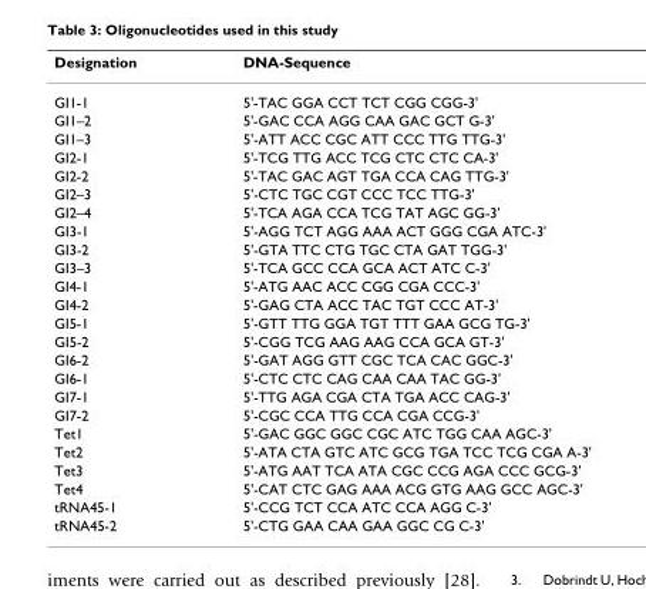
<table><thead><tr><td>Designation</td><td>DNA-Sequence</td></tr></thead><tbody><tr><td>GI1-1</td><td>5&#x27;-TAC GGA CCT TCT CGG CGG-3&#x27;</td></tr><tr><td>GI1–2</td><td>5&#x27;-GAC CCA AGG CAA GAC GCT G-3&#x27;</td></tr><tr><td>GI1–3</td><td>5&#x27;-ATT ACC CGC ATT CCC TTG TTG-3&#x27;</td></tr><tr><td>GI2-1</td><td>5&#x27;-TCG TTG ACC TCG CTC CTC CA-3&#x27;</td></tr><tr><td>GI2-2</td><td>5&#x27;-TAC GAC AGT TGA CCA CAG TTG-3&#x27;</td></tr><tr><td>GI2–3</td><td>5&#x27;-CTC TGC CGT CCC TCC TTG-3&#x27;</td></tr><tr><td>GI2–4</td><td>5&#x27;-TCA AGA CCA TCG TAT AGC GG-3&#x27;</td></tr><tr><td>GI3-1</td><td>5&#x27;-AGG TCT AGG AAA ACT GGG CGA ATC-3&#x27;</td></tr><tr><td>GI3-2</td><td>5&#x27;-GTA TTC CTG TGC CTA GAT TGG-3&#x27;</td></tr><tr><td>GI3–3</td><td>5&#x27;-TCA GCC CCA GCA ACT ATC C-3&#x27;</td></tr><tr><td>GI4-1</td><td>5&#x27;-ATG AAC ACC CGG CGA CCC-3&#x27;</td></tr><tr><td>GI4-2</td><td>5&#x27;-GAG CTA ACC TAC TGT CCC AT-3&#x27;</td></tr><tr><td>GI5-1</td><td>5&#x27;-GTT TTG GGA TGT TTT GAA GCG TG-3&#x27;</td></tr><tr><td>GI5-2</td><td>5&#x27;-CGG TCG AAG AAG CCA GCA GT-3&#x27;</td></tr><tr><td>GI6-2</td><td>5&#x27;-GAT AGG GTT CGC TCA CAC GGC-3&#x27;</td></tr><tr><td>GI6-1</td><td>5&#x27;-CTC CTC CAG CAA CAA TAC GG-3&#x27;</td></tr><tr><td>GI7-1</td><td>5&#x27;-TTG AGA CGA CTA TGA ACC CAG-3&#x27;</td></tr><tr><td>GI7-2</td><td>5&#x27;-CGC CCA TTG CCA CGA CCG-3&#x27;</td></tr><tr><td>Tet1</td><td>5&#x27;-GAC GGC GGC CGC ATC TGG CAA AGC-3&#x27;</td></tr><tr><td>Tet2</td><td>5&#x27;-ATA CTA GTC ATC GCG TGA TCC TCG CGA A-3&#x27;</td></tr><tr><td>Tet3</td><td>5&#x27;-ATG AAT TCA ATA CGC CCG AGA CCC GCG-3&#x27;</td></tr><tr><td>Tet4</td><td>5&#x27;-CAT CTC GAG AAA ACG GTG AAG GCC AGC-3&#x27;</td></tr><tr><td>tRNA45-1</td><td>5&#x27;-CCG TCT CCA ATC CCA AGG C-3&#x27;</td></tr><tr><td>tRNA45-2</td><td>5&#x27;-CTG GAA CAA GAA GGC CG C-3&#x27;</td></tr></tbody></table>